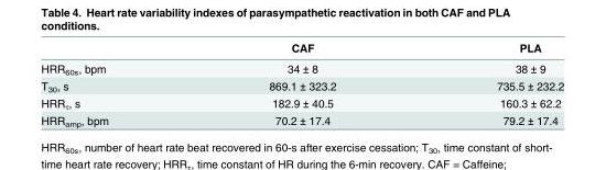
<table><thead><tr><td></td><td>CAF</td><td>PLA</td></tr></thead><tbody><tr><td>HRR<sub>60s</sub>, bpm</td><td>34 ± 8</td><td>38 ± 9</td></tr><tr><td>T<sub>30</sub>, s</td><td>869.1 ± 323.2</td><td>735.5 ± 232.2</td></tr><tr><td>HRR<sub>τ</sub>, s</td><td>182.9 ± 40.5</td><td>160.3 ± 62.2</td></tr><tr><td>HRR<sub>amp</sub>, bpm</td><td>70.2 ± 17.4</td><td>79.2 ± 17.4</td></tr></tbody></table>